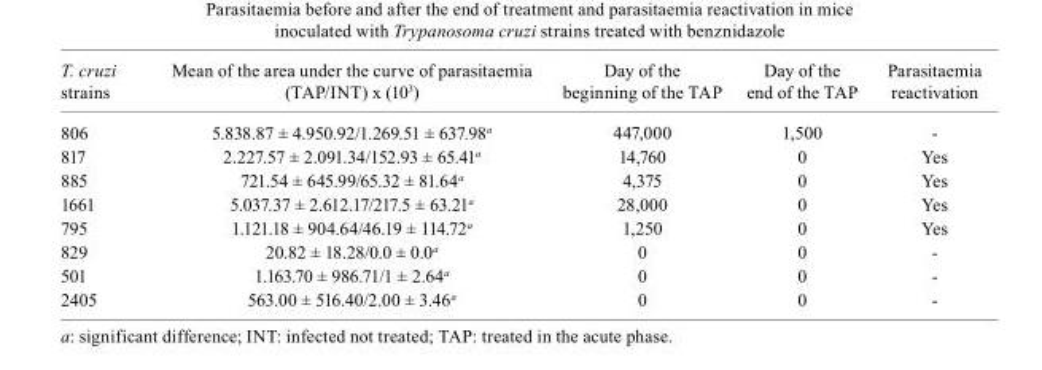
<table><thead><tr><td>T. cruzi strains</td><td>Mean of the area under the curve of parasitaemia (TAP/INT) x (10<sup>3</sup>)</td><td>Day of the beginning of the TAP</td><td>Day of the end of the TAP</td><td>Parasitaemia reactivation</td></tr></thead><tbody><tr><td>806</td><td>5.838.87 ± 4.950.92/1.269.51 ± 637.98<sup>a</sup></td><td>447,000</td><td>1,500</td><td>-</td></tr><tr><td>817</td><td>2.227.57 ± 2.091.34/152.93 ± 65.41<sup>a</sup></td><td>14,760</td><td>0</td><td>Yes</td></tr><tr><td>885</td><td>721.54 ± 645.99/65.32 ± 81.64<sup>a</sup></td><td>4,375</td><td>0</td><td>Yes</td></tr><tr><td>1661</td><td>5.037.37 ± 2.612.17/217.5 ± 63.21<sup>a</sup></td><td>28,000</td><td>0</td><td>Yes</td></tr><tr><td>795</td><td>1.121.18 ± 904.64/46.19 ± 114.72<sup>a</sup></td><td>1,250</td><td>0</td><td>Yes</td></tr><tr><td>829</td><td>20.82 ± 18.28/0.0 ± 0.0<sup>a</sup></td><td>0</td><td>0</td><td>-</td></tr><tr><td>501</td><td>1.163.70 ± 986.71/1 ± 2.64<sup>a</sup></td><td>0</td><td>0</td><td>-</td></tr><tr><td>2405</td><td>563.00 ± 516.40/2.00 ± 3.46<sup>a</sup></td><td>0</td><td>0</td><td>-</td></tr></tbody></table>